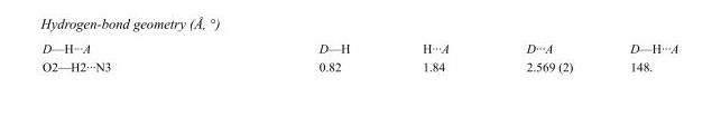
<table><tbody><tr><td>D—H···A</td><td>D—H</td><td>H···A</td><td>D···A</td><td>D—H···A</td></tr><tr><td>O2—H2···N3</td><td>0.82</td><td>1.84</td><td>2.569 (2)</td><td>148.</td></tr></tbody></table>